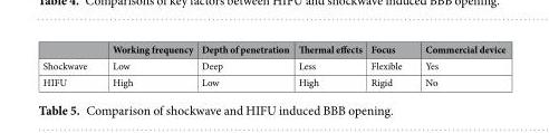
<table><thead><tr><td></td><td>Working frequency</td><td>Depth of penetration</td><td>Thermal effects</td><td>Focus</td><td>Commercial device</td></tr></thead><tbody><tr><td>Shockwave</td><td>Low</td><td>Deep</td><td>Less</td><td>Flexible</td><td>Yes</td></tr><tr><td>HIFU</td><td>High</td><td>Low</td><td>High</td><td>Rigid</td><td>No</td></tr></tbody></table>